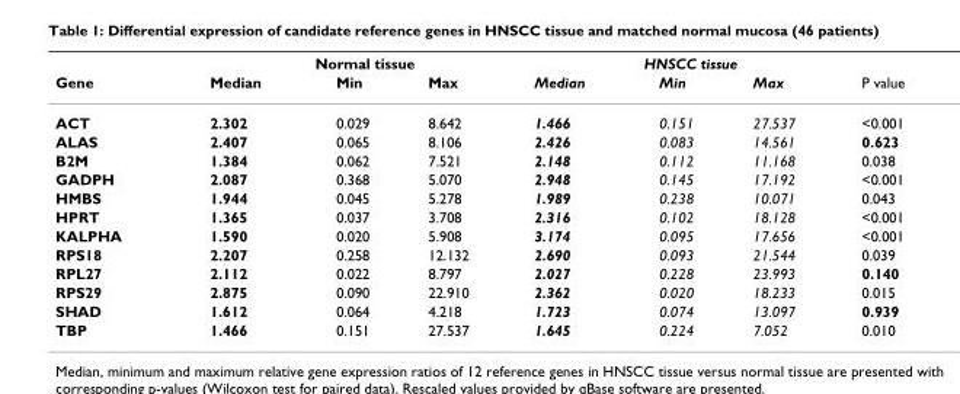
<table><thead><tr><td rowspan="2">Gene</td><td colspan="3">Normal tissue</td><td colspan="3">HNSCC tissue</td><td rowspan="2">P value</td></tr><tr><td>Median</td><td>Min</td><td>Max</td><td>Median</td><td>Min</td><td>Max</td></tr></thead><tbody><tr><td>ACT</td><td>2.302</td><td>0.029</td><td>8.642</td><td>1.466</td><td>0.151</td><td>27.537</td><td>&lt;0.001</td></tr><tr><td>ALAS</td><td>2.407</td><td>0.065</td><td>8.106</td><td>2.426</td><td>0.083</td><td>14.561</td><td>0.623</td></tr><tr><td>B2M</td><td>1.384</td><td>0.062</td><td>7.521</td><td>2.148</td><td>0.112</td><td>11.168</td><td>0.038</td></tr><tr><td>GADPH</td><td>2.087</td><td>0.368</td><td>5.070</td><td>2.948</td><td>0.145</td><td>17.192</td><td>&lt;0.001</td></tr><tr><td>HMBS</td><td>1.944</td><td>0.045</td><td>5.278</td><td>1.989</td><td>0.238</td><td>10.071</td><td>0.043</td></tr><tr><td>HPRT</td><td>1.365</td><td>0.037</td><td>3.708</td><td>2.316</td><td>0.102</td><td>18.128</td><td>&lt;0.001</td></tr><tr><td>KALPHA</td><td>1.590</td><td>0.020</td><td>5.908</td><td>3.174</td><td>0.095</td><td>17.656</td><td>&lt;0.001</td></tr><tr><td>RPS18</td><td>2.207</td><td>0.258</td><td>12.132</td><td>2.690</td><td>0.093</td><td>21.544</td><td>0.039</td></tr><tr><td>RPL27</td><td>2.112</td><td>0.022</td><td>8.797</td><td>2.027</td><td>0.228</td><td>23.993</td><td>0.140</td></tr><tr><td>RPS29</td><td>2.875</td><td>0.090</td><td>22.910</td><td>2.362</td><td>0.020</td><td>18.233</td><td>0.015</td></tr><tr><td>SHAD</td><td>1.612</td><td>0.064</td><td>4.218</td><td>1.723</td><td>0.074</td><td>13.097</td><td>0.939</td></tr><tr><td>TBP</td><td>1.466</td><td>0.151</td><td>27.537</td><td>1.645</td><td>0.224</td><td>7.052</td><td>0.010</td></tr></tbody></table>